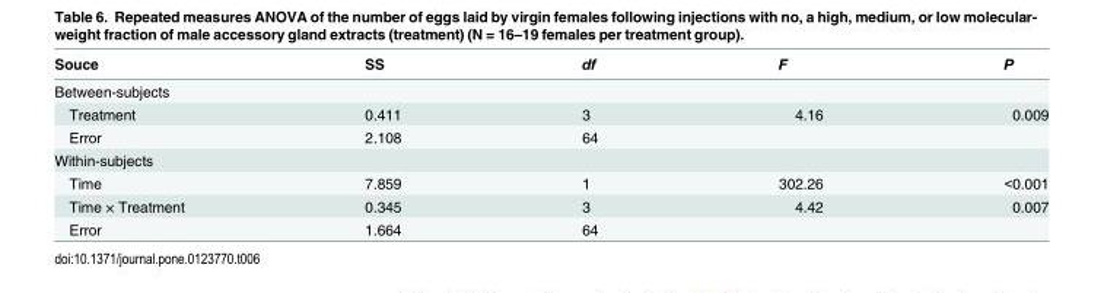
<table><thead><tr><td>Souce</td><td>SS</td><td>df</td><td>F</td><td>P</td></tr></thead><tbody><tr><td colspan="5">Between-subjects</td></tr><tr><td>Treatment</td><td>0.411</td><td>3</td><td>4.16</td><td>0.009</td></tr><tr><td>Error</td><td>2.108</td><td>64</td><td></td><td></td></tr><tr><td colspan="5">Within-subjects</td></tr><tr><td>Time</td><td>7.859</td><td>1</td><td>302.26</td><td>&lt;0.001</td></tr><tr><td>Time × Treatment</td><td>0.345</td><td>3</td><td>4.42</td><td>0.007</td></tr><tr><td>Error</td><td>1.664</td><td>64</td><td></td><td></td></tr></tbody></table>